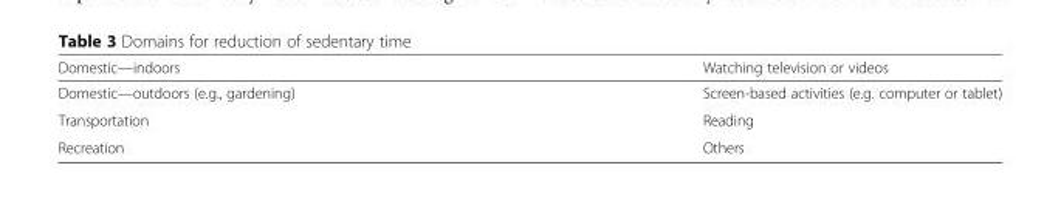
<table><thead><tr><td>Domestic—indoors</td><td>Watching television or videos</td></tr></thead><tbody><tr><td>Domestic—outdoors (e.g., gardening)</td><td>Screen-based activities (e.g. computer or tablet)</td></tr><tr><td>Transportation</td><td>Reading</td></tr><tr><td>Recreation</td><td>Others</td></tr></tbody></table>